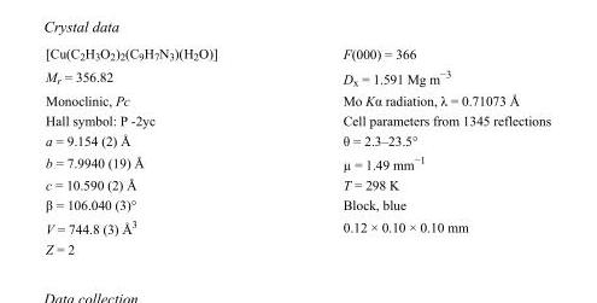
<table><tbody><tr><td>[Cu(C<sub>2</sub>H<sub>3</sub>O<sub>2</sub>)<sub>2</sub>(C<sub>9</sub>H<sub>7</sub>N<sub>3</sub>)(H<sub>2</sub>O)]</td><td>F(000) = 366</td></tr><tr><td>M<sub>r</sub> = 356.82</td><td>D<sub>x</sub> = 1.591 Mg m<sup>−3</sup></td></tr><tr><td>Monoclinic, Pc</td><td>Mo Kα radiation, λ = 0.71073 Å</td></tr><tr><td>Hall symbol: P -2yc</td><td>Cell parameters from 1345 reflections</td></tr><tr><td>a = 9.154 (2) Å</td><td>θ = 2.3–23.5°</td></tr><tr><td>b = 7.9940 (19) Å</td><td>µ = 1.49 mm<sup>−1</sup></td></tr><tr><td>c = 10.590 (2) Å</td><td>T = 298 K</td></tr><tr><td>β = 106.040 (3)°</td><td>Block, blue</td></tr><tr><td>V = 744.8 (3) Å<sup>3</sup></td><td>0.12 × 0.10 × 0.10 mm</td></tr><tr><td>Z = 2</td><td></td></tr></tbody></table>